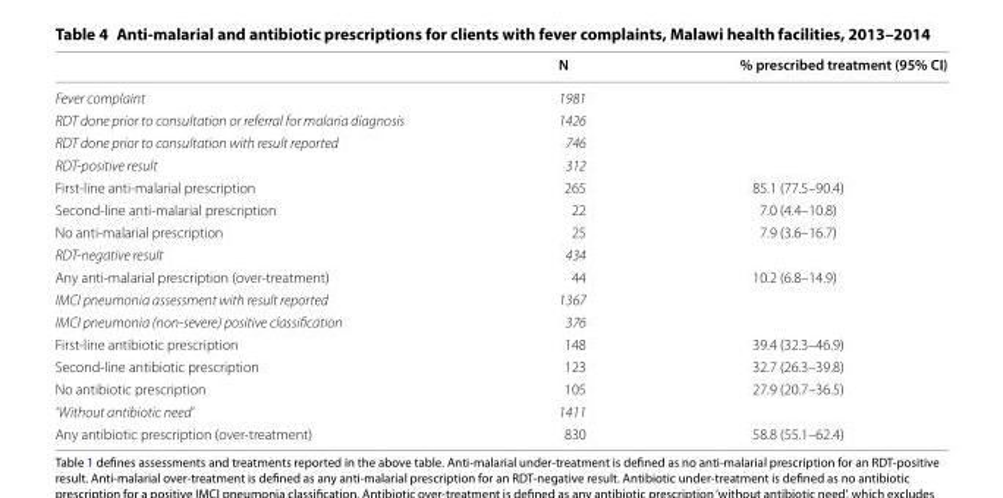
<table><thead><tr><td></td><td>N</td><td>% prescribed treatment (95% CI)</td></tr></thead><tbody><tr><td>Fever complaint</td><td>1981</td><td></td></tr><tr><td>RDT done prior to consultation or referral for malaria diagnosis</td><td>1426</td><td></td></tr><tr><td>RDT done prior to consultation with result reported</td><td>746</td><td></td></tr><tr><td>RDT-positive result</td><td>312</td><td></td></tr><tr><td>First-line anti-malarial prescription</td><td>265</td><td>85.1 (77.5–90.4)</td></tr><tr><td>Second-line anti-malarial prescription</td><td>22</td><td>7.0 (4.4–10.8)</td></tr><tr><td>No anti-malarial prescription</td><td>25</td><td>7.9 (3.6–16.7)</td></tr><tr><td>RDT-negative result</td><td>434</td><td></td></tr><tr><td>Any anti-malarial prescription (over-treatment)</td><td>44</td><td>10.2 (6.8–14.9)</td></tr><tr><td>IMCI pneumonia assessment with result reported</td><td>1367</td><td></td></tr><tr><td>IMCI pneumonia (non-severe) positive classification</td><td>376</td><td></td></tr><tr><td>First-line antibiotic prescription</td><td>148</td><td>39.4 (32.3–46.9)</td></tr><tr><td>Second-line antibiotic prescription</td><td>123</td><td>32.7 (26.3–39.8)</td></tr><tr><td>No antibiotic prescription</td><td>105</td><td>27.9 (20.7–36.5)</td></tr><tr><td>‘Without antibiotic need’</td><td>1411</td><td></td></tr><tr><td>Any antibiotic prescription (over-treatment)</td><td>830</td><td>58.8 (55.1–62.4)</td></tr></tbody></table>